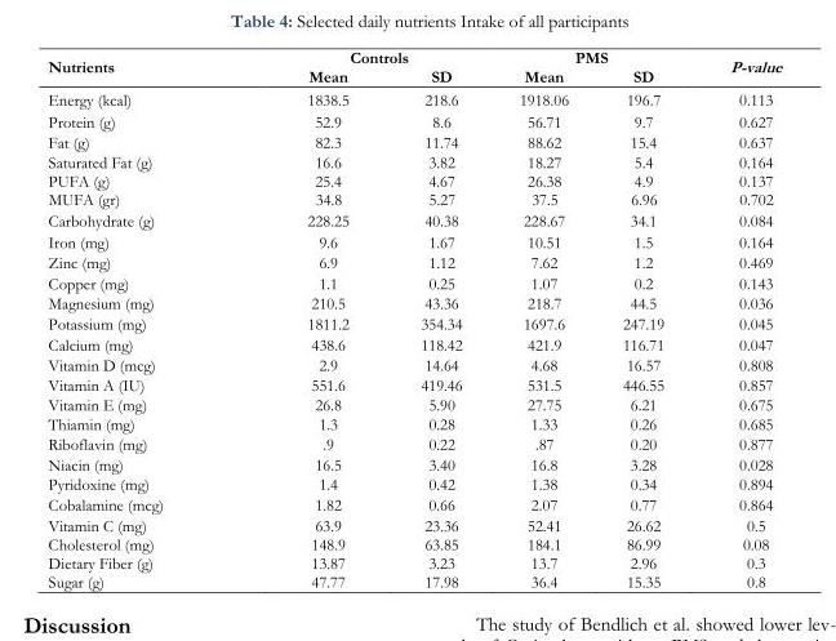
<table><tbody><tr><td rowspan="2">Nutrients</td><td colspan="2">Controls</td><td colspan="2">PMS</td><td rowspan="2">P-value</td></tr><tr><td>Mean</td><td>SD</td><td>Mean</td><td>SD</td></tr><tr><td>Energy (kcal)</td><td>1838.5</td><td>218.6</td><td>1918.06</td><td>196.7</td><td>0.113</td></tr><tr><td>Protein (g)</td><td>52.9</td><td>8.6</td><td>56.71</td><td>9.7</td><td>0.627</td></tr><tr><td>Fat (g)</td><td>82.3</td><td>11.74</td><td>88.62</td><td>15.4</td><td>0.637</td></tr><tr><td>Saturated Fat (g)</td><td>16.6</td><td>3.82</td><td>18.27</td><td>5.4</td><td>0.164</td></tr><tr><td>PUFA (g)</td><td>25.4</td><td>4.67</td><td>26.38</td><td>4.9</td><td>0.137</td></tr><tr><td>MUFA (gr)</td><td>34.8</td><td>5.27</td><td>37.5</td><td>6.96</td><td>0.702</td></tr><tr><td>Carbohydrate (g)</td><td>228.25</td><td>40.38</td><td>228.67</td><td>34.1</td><td>0.084</td></tr><tr><td>Iron (mg)</td><td>9.6</td><td>1.67</td><td>10.51</td><td>1.5</td><td>0.164</td></tr><tr><td>Zinc (mg)</td><td>6.9</td><td>1.12</td><td>7.62</td><td>1.2</td><td>0.469</td></tr><tr><td>Copper (mg)</td><td>1.1</td><td>0.25</td><td>1.07</td><td>0.2</td><td>0.143</td></tr><tr><td>Magnesium (mg)</td><td>210.5</td><td>43.36</td><td>218.7</td><td>44.5</td><td>0.036</td></tr><tr><td>Potassium (mg)</td><td>1811.2</td><td>354.34</td><td>1697.6</td><td>247.19</td><td>0.045</td></tr><tr><td>Calcium (mg)</td><td>438.6</td><td>118.42</td><td>421.9</td><td>116.71</td><td>0.047</td></tr><tr><td>Vitamin D (mcg)</td><td>2.9</td><td>14.64</td><td>4.68</td><td>16.57</td><td>0.808</td></tr><tr><td>Vitamin A (IU)</td><td>551.6</td><td>419.46</td><td>531.5</td><td>446.55</td><td>0.857</td></tr><tr><td>Vitamin E (mg)</td><td>26.8</td><td>5.90</td><td>27.75</td><td>6.21</td><td>0.675</td></tr><tr><td>Thiamin (mg)</td><td>1.3</td><td>0.28</td><td>1.33</td><td>0.26</td><td>0.685</td></tr><tr><td>Riboflavin (mg)</td><td>.9</td><td>0.22</td><td>.87</td><td>0.20</td><td>0.877</td></tr><tr><td>Niacin (mg)</td><td>16.5</td><td>3.40</td><td>16.8</td><td>3.28</td><td>0.028</td></tr><tr><td>Pyridoxine (mg)</td><td>1.4</td><td>0.42</td><td>1.38</td><td>0.34</td><td>0.894</td></tr><tr><td>Cobalamine (mcg)</td><td>1.82</td><td>0.66</td><td>2.07</td><td>0.77</td><td>0.864</td></tr><tr><td>Vitamin C (mg)</td><td>63.9</td><td>23.36</td><td>52.41</td><td>26.62</td><td>0.5</td></tr><tr><td>Cholesterol (mg)</td><td>148.9</td><td>63.85</td><td>184.1</td><td>86.99</td><td>0.08</td></tr><tr><td>Dietary Fiber (g)</td><td>13.87</td><td>3.23</td><td>13.7</td><td>2.96</td><td>0.3</td></tr><tr><td>Sugar (g)</td><td>47.77</td><td>17.98</td><td>36.4</td><td>15.35</td><td>0.8</td></tr></tbody></table>